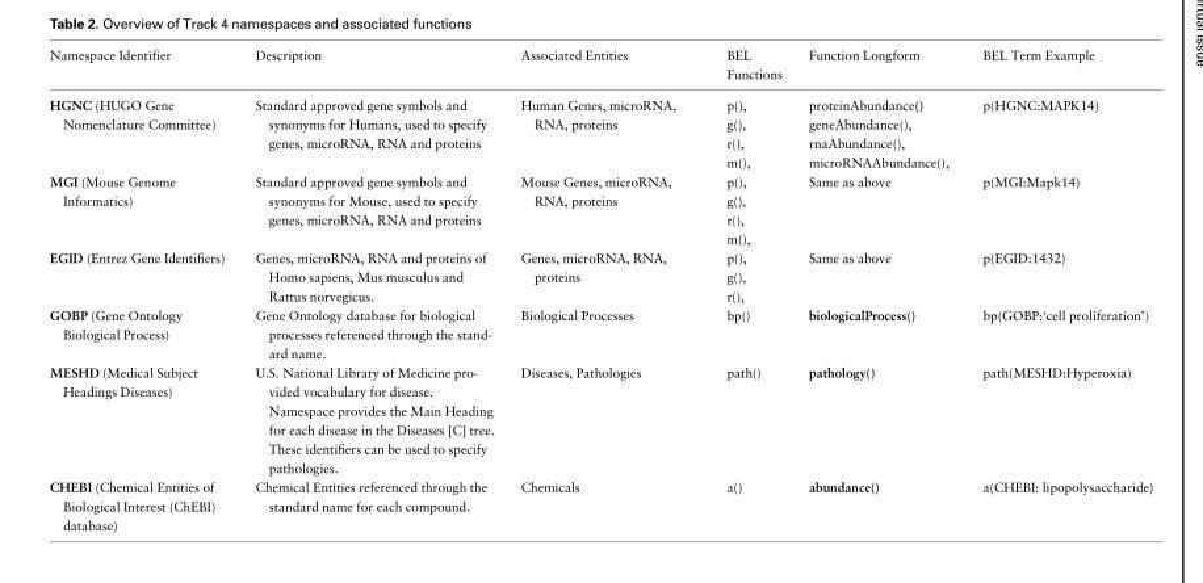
<table><thead><tr><td>Namespace Identifier</td><td>Description</td><td>Associated Entities</td><td>BEL Functions</td><td>Function Longform</td><td>BEL Term Example</td></tr></thead><tbody><tr><td>HGNC (HUGO Gene Nomenclature Committee)</td><td>Standard approved gene symbols and synonyms for Humans, used to specify genes, microRNA, RNA and proteins</td><td>Human Genes, microRNA, RNA, proteins</td><td>p(), g(), r(), m(),</td><td>proteinAbundance() geneAbundance(), rnaAbundance(), microRNAAbundance(),</td><td>p(HGNC:MAPK14)</td></tr><tr><td>MGI (Mouse Genome Informatics)</td><td>Standard approved gene symbols and synonyms for Mouse, used to specify genes, microRNA, RNA and proteins</td><td>Mouse Genes, microRNA, RNA, proteins</td><td>p(), g(), r(), m(),</td><td>Same as above</td><td>p(MGI:Mapk14)</td></tr><tr><td>EGID (Entrez Gene Identifiers)</td><td>Genes, microRNA, RNA and proteins of Homo sapiens, Mus musculus and Rattus norvegicus.</td><td>Genes, microRNA, RNA, proteins</td><td>p(), g(), r(),</td><td>Same as above</td><td>p(EGID:1432)</td></tr><tr><td>GOBP (Gene Ontology Biological Process)</td><td>Gene Ontology database for biological processes referenced through the stand- ard name.</td><td>Biological Processes</td><td>bp()</td><td>biologicalProcess()</td><td>bp(GOBP:‘cell proliferation’)</td></tr><tr><td>MESHD (Medical Subject Headings Diseases)</td><td>U.S. National Library of Medicine pro- vided vocabulary for disease. Namespace provides the Main Heading for each disease in the Diseases [C] tree. These identifiers can be used to specify pathologies.</td><td>Diseases, Pathologies</td><td>path()</td><td>pathology()</td><td>path(MESHD:Hyperoxia)</td></tr><tr><td>CHEBI (Chemical Entities of Biological Interest (ChEBI) database)</td><td>Chemical Entities referenced through the standard name for each compound.</td><td>Chemicals</td><td>a()</td><td>abundance()</td><td>a(CHEBI: lipopolysaccharide)</td></tr></tbody></table>